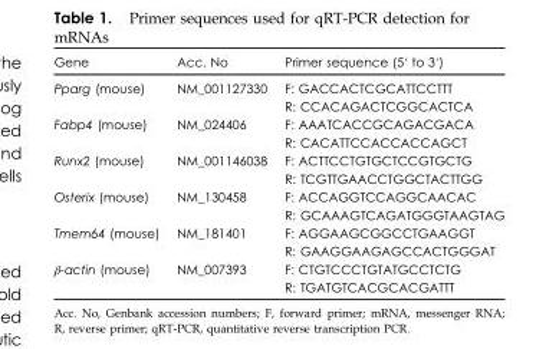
<table><thead><tr><td>Gene</td><td>Acc. No</td><td>Primer sequence (5′ to 3′)</td></tr></thead><tbody><tr><td rowspan="2">Pparg (mouse)</td><td>NM_001127330</td><td>F: GACCACTCGCATTCCTTT</td></tr><tr><td></td><td>R: CCACAGACTCGGCACTCA</td></tr><tr><td rowspan="2">Fabp4 (mouse)</td><td>NM_024406</td><td>F: AAATCACCGCAGACGACA</td></tr><tr><td></td><td>R: CACATTCCACCACCAGCT</td></tr><tr><td rowspan="2">Runx2 (mouse)</td><td>NM_001146038</td><td>F: ACTTCCTGTGCTCCGTGCTG</td></tr><tr><td></td><td>R: TCGTTGAACCTGGCTACTTGG</td></tr><tr><td rowspan="2">Osterix (mouse)</td><td>NM_130458</td><td>F: ACCAGGTCCAGGCAACAC</td></tr><tr><td></td><td>R: GCAAAGTCAGATGGGTAAGTAG</td></tr><tr><td rowspan="2">Tmem64 (mouse)</td><td>NM_181401</td><td>F: AGGAAGCGGCCTGAAGGT</td></tr><tr><td></td><td>R: GAAGGAAGAGCCACTGGGAT</td></tr><tr><td rowspan="2">β-actin (mouse)</td><td>NM_007393</td><td>F: CTGTCCCTGTATGCCTCTG</td></tr><tr><td></td><td>R: TGATGTCACGCACGATTT</td></tr></tbody></table>